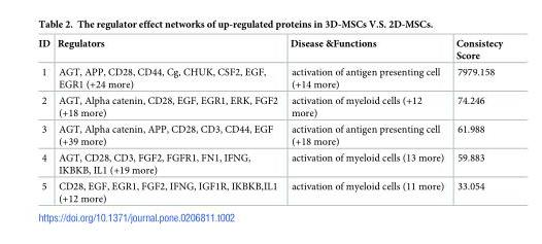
<table><thead><tr><td>ID</td><td>Regulators</td><td>Disease &amp;Functions</td><td>Consistecy Score</td></tr></thead><tbody><tr><td>1</td><td>AGT, APP, CD28, CD44, Cg, CHUK, CSF2, EGF, EGR1 (+24 more)</td><td>activation of antigen presenting cell (+14 more)</td><td>7979.158</td></tr><tr><td>2</td><td>AGT, Alpha catenin, CD28, EGF, EGR1, ERK, FGF2 (+18 more)</td><td>activation of myeloid cells (+12 more)</td><td>74.246</td></tr><tr><td>3</td><td>AGT, Alpha catenin, APP, CD28, CD3, CD44, EGF (+39 more)</td><td>activation of antigen presenting cell (+18 more)</td><td>61.988</td></tr><tr><td>4</td><td>AGT, CD28, CD3, FGF2, FGFR1, FN1, IFNG, IKBKB, IL1 (+19 more)</td><td>activation of myeloid cells (13 more)</td><td>59.883</td></tr><tr><td>5</td><td>CD28, EGF, EGR1, FGF2, IFNG, IGF1R, IKBKB,IL1 (+12 more)</td><td>activation of myeloid cells (11 more)</td><td>33.054</td></tr></tbody></table>